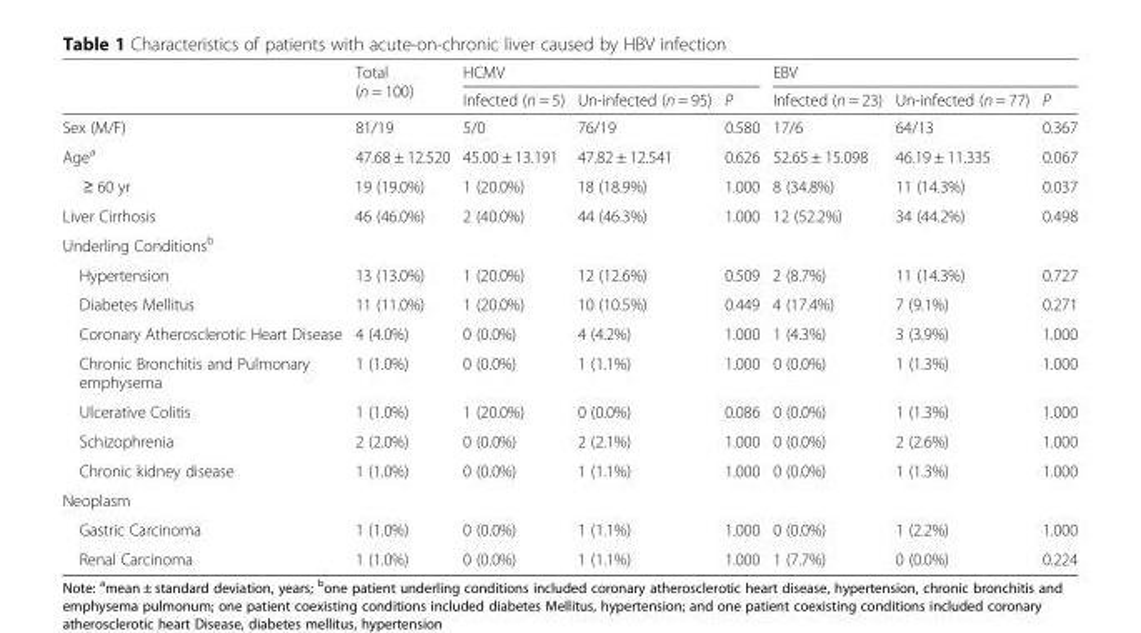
<table><thead><tr><td rowspan="2"></td><td rowspan="2">Total (n = 100)</td><td colspan="3">HCMV</td><td colspan="3">EBV</td></tr><tr><td>Infected (n = 5)</td><td>Un-infected (n = 95)</td><td>P</td><td>Infected (n = 23)</td><td>Un-infected (n = 77)</td><td>P</td></tr></thead><tbody><tr><td>Sex (M/F)</td><td>81/19</td><td>5/0</td><td>76/19</td><td>0.580</td><td>17/6</td><td>64/13</td><td>0.367</td></tr><tr><td>Age<sup>a</sup></td><td>47.68 ± 12.520</td><td>45.00 ± 13.191</td><td>47.82 ± 12.541</td><td>0.626</td><td>52.65 ± 15.098</td><td>46.19 ± 11.335</td><td>0.067</td></tr><tr><td>≥ 60 yr</td><td>19 (19.0%)</td><td>1 (20.0%)</td><td>18 (18.9%)</td><td>1.000</td><td>8 (34.8%)</td><td>11 (14.3%)</td><td>0.037</td></tr><tr><td>Liver Cirrhosis</td><td>46 (46.0%)</td><td>2 (40.0%)</td><td>44 (46.3%)</td><td>1.000</td><td>12 (52.2%)</td><td>34 (44.2%)</td><td>0.498</td></tr><tr><td colspan="8">Underling Conditions<sup>b</sup></td></tr><tr><td>Hypertension</td><td>13 (13.0%)</td><td>1 (20.0%)</td><td>12 (12.6%)</td><td>0.509</td><td>2 (8.7%)</td><td>11 (14.3%)</td><td>0.727</td></tr><tr><td>Diabetes Mellitus</td><td>11 (11.0%)</td><td>1 (20.0%)</td><td>10 (10.5%)</td><td>0.449</td><td>4 (17.4%)</td><td>7 (9.1%)</td><td>0.271</td></tr><tr><td>Coronary Atherosclerotic Heart Disease</td><td>4 (4.0%)</td><td>0 (0.0%)</td><td>4 (4.2%)</td><td>1.000</td><td>1 (4.3%)</td><td>3 (3.9%)</td><td>1.000</td></tr><tr><td>Chronic Bronchitis and Pulmonary emphysema</td><td>1 (1.0%)</td><td>0 (0.0%)</td><td>1 (1.1%)</td><td>1.000</td><td>0 (0.0%)</td><td>1 (1.3%)</td><td>1.000</td></tr><tr><td>Ulcerative Colitis</td><td>1 (1.0%)</td><td>1 (20.0%)</td><td>0 (0.0%)</td><td>0.086</td><td>0 (0.0%)</td><td>1 (1.3%)</td><td>1.000</td></tr><tr><td>Schizophrenia</td><td>2 (2.0%)</td><td>0 (0.0%)</td><td>2 (2.1%)</td><td>1.000</td><td>0 (0.0%)</td><td>2 (2.6%)</td><td>1.000</td></tr><tr><td>Chronic kidney disease</td><td>1 (1.0%)</td><td>0 (0.0%)</td><td>1 (1.1%)</td><td>1.000</td><td>0 (0.0%)</td><td>1 (1.3%)</td><td>1.000</td></tr><tr><td colspan="8">Neoplasm</td></tr><tr><td>Gastric Carcinoma</td><td>1 (1.0%)</td><td>0 (0.0%)</td><td>1 (1.1%)</td><td>1.000</td><td>0 (0.0%)</td><td>1 (2.2%)</td><td>1.000</td></tr><tr><td>Renal Carcinoma</td><td>1 (1.0%)</td><td>0 (0.0%)</td><td>1 (1.1%)</td><td>1.000</td><td>1 (7.7%)</td><td>0 (0.0%)</td><td>0.224</td></tr></tbody></table>